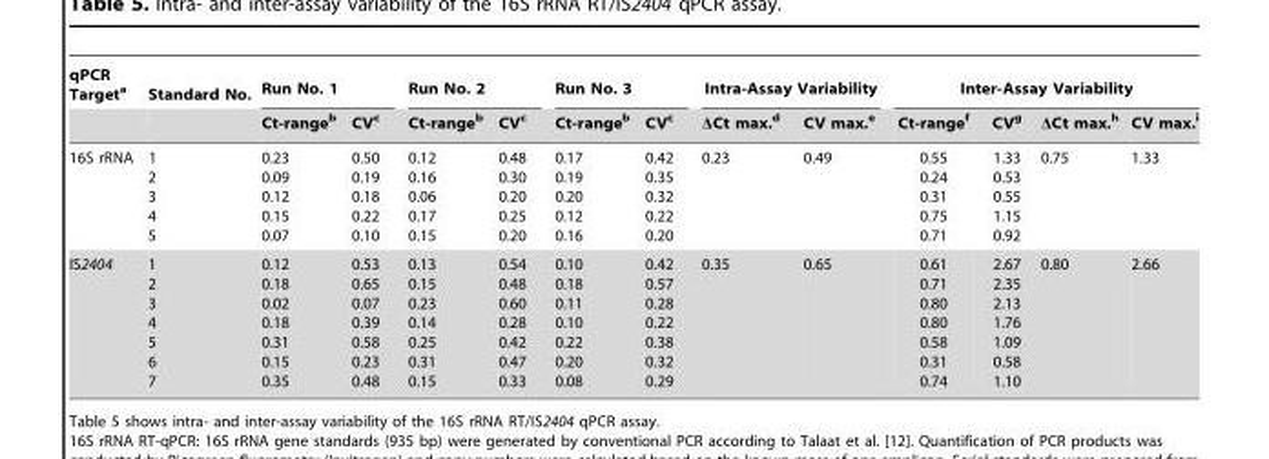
<table><thead><tr><td rowspan="2">qPCR Target<sup>a</sup></td><td rowspan="2">Standard No.</td><td colspan="2">Run No. 1</td><td colspan="2">Run No. 2</td><td colspan="2">Run No. 3</td><td colspan="2">Intra-Assay Variability</td><td colspan="4">Inter-Assay Variability</td></tr><tr><td>Ct-range<sup>b</sup></td><td>CV<sup>c</sup></td><td>Ct-range<sup>b</sup></td><td>CV<sup>c</sup></td><td>Ct-range<sup>b</sup></td><td>CV<sup>c</sup></td><td>ΔCt max.<sup>d</sup></td><td>CV max.<sup>e</sup></td><td>Ct-range<sup>f</sup></td><td>CV<sup>g</sup></td><td>ΔCt max.<sup>h</sup></td><td>CV max.<sup>i</sup></td></tr></thead><tbody><tr><td>16S rRNA</td><td>1 2 3 4 5</td><td>0.23 0.09 0.12 0.15 0.07</td><td>0.50 0.19 0.18 0.22 0.10</td><td>0.12 0.16 0.06 0.17 0.15</td><td>0.48 0.30 0.20 0.25 0.20</td><td>0.17 0.19 0.20 0.12 0.16</td><td>0.42 0.35 0.32 0.22 0.20</td><td>0.23</td><td>0.49</td><td>0.55 0.24 0.31 0.75 0.71</td><td>1.33 0.53 0.55 1.15 0.92</td><td>0.75</td><td>1.33</td></tr><tr><td>IS2404</td><td>1 2 3 4 5 6 7</td><td>0.12 0.18 0.02 0.18 0.31 0.15 0.35</td><td>0.53 0.65 0.07 0.39 0.58 0.23 0.48</td><td>0.13 0.15 0.23 0.14 0.25 0.31 0.15</td><td>0.54 0.48 0.60 0.28 0.42 0.47 0.33</td><td>0.10 0.18 0.11 0.10 0.22 0.20 0.08</td><td>0.42 0.57 0.28 0.22 0.38 0.32 0.29</td><td>0.35</td><td>0.65</td><td>0.61 0.71 0.80 0.80 0.58 0.31 0.74</td><td>2.67 2.35 2.13 1.76 1.09 0.58 1.10</td><td>0.80</td><td>2.66</td></tr></tbody></table>